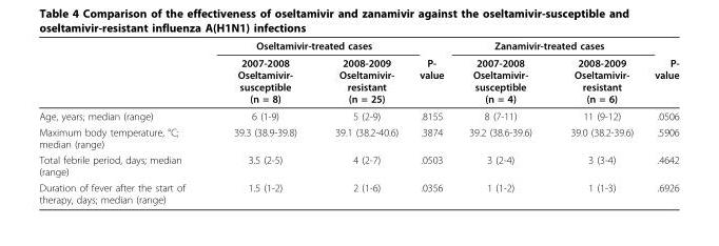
<table><thead><tr><td rowspan="2"></td><td colspan="2">Oseltamivir-treated cases</td><td rowspan="2">P- value</td><td colspan="2">Zanamivir-treated cases</td><td rowspan="2">P- value</td></tr><tr><td>2007-2008 Oseltamivir- susceptible (n = 8)</td><td>2008-2009 Oseltamivir- resistant (n = 25)</td><td>2007-2008 Oseltamivir- susceptible (n = 4)</td><td>2008-2009 Oseltamivir- resistant (n = 6)</td></tr></thead><tbody><tr><td>Age, years; median (range)</td><td>6 (1-9)</td><td>5 (2-9)</td><td>.8155</td><td>8 (7-11)</td><td>11 (9-12)</td><td>.0506</td></tr><tr><td>Maximum body temperature, °C; median (range)</td><td>39.3 (38.9-39.8)</td><td>39.1 (38.2-40.6)</td><td>.3874</td><td>39.2 (38.6-39.6)</td><td>39.0 (38.2-39.6)</td><td>.5906</td></tr><tr><td>Total febrile period, days; median (range)</td><td>3.5 (2-5)</td><td>4 (2-7)</td><td>.0503</td><td>3 (2-4)</td><td>3 (3-4)</td><td>.4642</td></tr><tr><td>Duration of fever after the start of therapy, days; median (range)</td><td>1.5 (1-2)</td><td>2 (1-6)</td><td>.0356</td><td>1 (1-2)</td><td>1 (1-3)</td><td>.6926</td></tr></tbody></table>